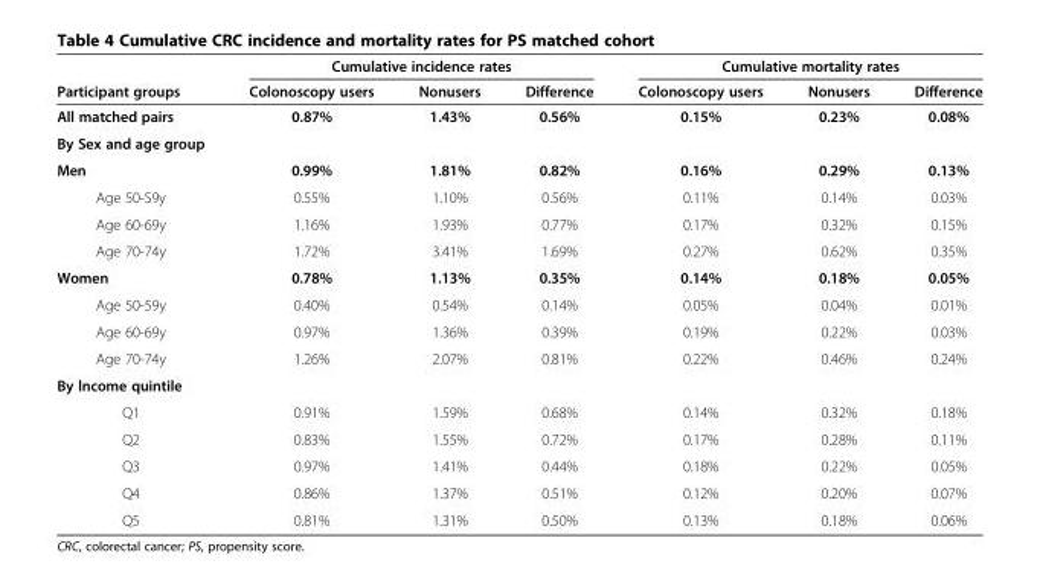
<table><thead><tr><td rowspan="2">Participant groups</td><td colspan="3">Cumulative incidence rates</td><td colspan="3">Cumulative mortality rates</td></tr><tr><td>Colonoscopy users</td><td>Nonusers</td><td>Difference</td><td>Colonoscopy users</td><td>Nonusers</td><td>Difference</td></tr></thead><tbody><tr><td>All matched pairs</td><td>0.87%</td><td>1.43%</td><td>0.56%</td><td>0.15%</td><td>0.23%</td><td>0.08%</td></tr><tr><td colspan="7">By Sex and age group</td></tr><tr><td>Men</td><td>0.99%</td><td>1.81%</td><td>0.82%</td><td>0.16%</td><td>0.29%</td><td>0.13%</td></tr><tr><td>Age 50-S9y</td><td>0.55%</td><td>1.10%</td><td>0.56%</td><td>0.11%</td><td>0.14%</td><td>0.03%</td></tr><tr><td>Age 60-69y</td><td>1.16%</td><td>1.93%</td><td>0.77%</td><td>0.17%</td><td>0.32%</td><td>0.15%</td></tr><tr><td>Age 70-74y</td><td>1.72%</td><td>3.41%</td><td>1.69%</td><td>0.27%</td><td>0.62%</td><td>0.35%</td></tr><tr><td>Women</td><td>0.78%</td><td>1.13%</td><td>0.35%</td><td>0.14%</td><td>0.18%</td><td>0.05%</td></tr><tr><td>Age 50-59y</td><td>0.40%</td><td>0.54%</td><td>0.14%</td><td>0.05%</td><td>0.04%</td><td>0.01%</td></tr><tr><td>Age 60-69y</td><td>0.97%</td><td>1.36%</td><td>0.39%</td><td>0.19%</td><td>0.22%</td><td>0.03%</td></tr><tr><td>Age 70-74y</td><td>1.26%</td><td>2.07%</td><td>0.81%</td><td>0.22%</td><td>0.46%</td><td>0.24%</td></tr><tr><td colspan="7">By lncome quintile</td></tr><tr><td>Q1</td><td>0.91%</td><td>1.59%</td><td>0.68%</td><td>0.14%</td><td>0.32%</td><td>0.18%</td></tr><tr><td>Q2</td><td>0.83%</td><td>1.55%</td><td>0.72%</td><td>0.17%</td><td>0.28%</td><td>0.11%</td></tr><tr><td>Q3</td><td>0.97%</td><td>1.41%</td><td>0.44%</td><td>0.18%</td><td>0.22%</td><td>0.05%</td></tr><tr><td>Q4</td><td>0.86%</td><td>1.37%</td><td>0.51%</td><td>0.12%</td><td>0.20%</td><td>0.07%</td></tr><tr><td>Q5</td><td>0.81%</td><td>1.31%</td><td>0.50%</td><td>0.13%</td><td>0.18%</td><td>0.06%</td></tr></tbody></table>